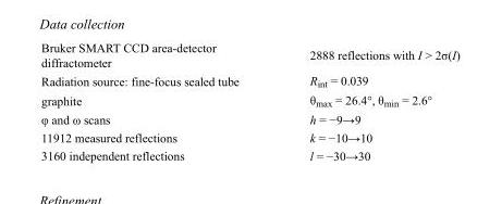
<table><tbody><tr><td>Bruker SMART CCD area-detector diffractometer</td><td>2888 reflections with I &gt; 2σ(I)</td></tr><tr><td>Radiation source: fine-focus sealed tube</td><td>R<sub>int</sub> = 0.039</td></tr><tr><td>graphite</td><td>θ<sub>max</sub> = 26.4°, θ<sub>min</sub> = 2.6°</td></tr><tr><td>φ and ω scans</td><td>h = −9→9</td></tr><tr><td>11912 measured reflections</td><td>k = −10→10</td></tr><tr><td>3160 independent reflections</td><td>l = −30→30</td></tr></tbody></table>